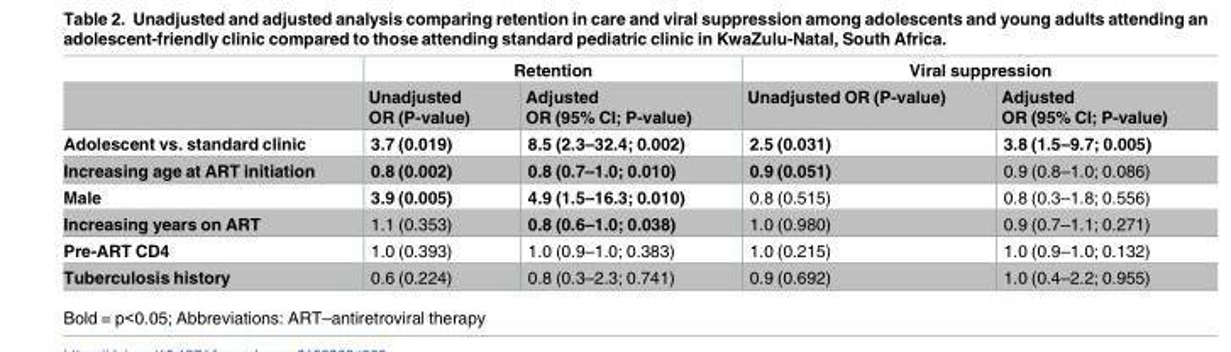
<table><thead><tr><td rowspan="2"></td><td colspan="2">Retention</td><td colspan="2">Viral suppression</td></tr><tr><td>Unadjusted OR (P-value)</td><td>Adjusted OR (95% CI; P-value)</td><td>Unadjusted OR (P-value)</td><td>Adjusted OR (95% CI; P-value)</td></tr></thead><tbody><tr><td>Adolescent vs. standard clinic</td><td>3.7 (0.019)</td><td>8.5 (2.3–32.4; 0.002)</td><td>2.5 (0.031)</td><td>3.8 (1.5–9.7; 0.005)</td></tr><tr><td>Increasing age at ART initiation</td><td>0.8 (0.002)</td><td>0.8 (0.7–1.0; 0.010)</td><td>0.9 (0.051)</td><td>0.9 (0.8–1.0; 0.086)</td></tr><tr><td>Male</td><td>3.9 (0.005)</td><td>4.9 (1.5–16.3; 0.010)</td><td>0.8 (0.515)</td><td>0.8 (0.3–1.8; 0.556)</td></tr><tr><td>Increasing years on ART</td><td>1.1 (0.353)</td><td>0.8 (0.6–1.0; 0.038)</td><td>1.0 (0.980)</td><td>0.9 (0.7–1.1; 0.271)</td></tr><tr><td>Pre-ART CD4</td><td>1.0 (0.393)</td><td>1.0 (0.9–1.0; 0.383)</td><td>1.0 (0.215)</td><td>1.0 (0.9–1.0; 0.132)</td></tr><tr><td>Tuberculosis history</td><td>0.6 (0.224)</td><td>0.8 (0.3–2.3; 0.741)</td><td>0.9 (0.692)</td><td>1.0 (0.4–2.2; 0.955)</td></tr></tbody></table>